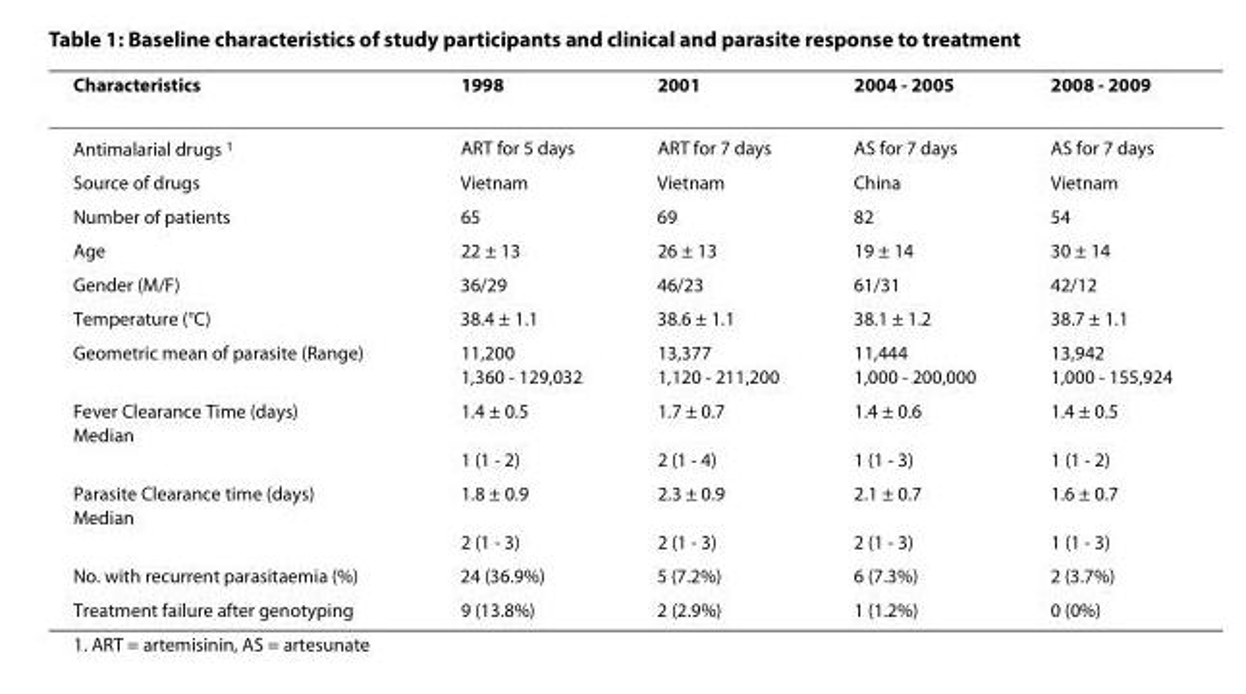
<table><thead><tr><td>Characteristics</td><td>1998</td><td>2001</td><td>2004 - 2005</td><td>2008 - 2009</td></tr></thead><tbody><tr><td>Antimalarial drugs <sup>1</sup></td><td>ART for 5 days</td><td>ART for 7 days</td><td>AS for 7 days</td><td>AS for 7 days</td></tr><tr><td>Source of drugs</td><td>Vietnam</td><td>Vietnam</td><td>China</td><td>Vietnam</td></tr><tr><td>Number of patients</td><td>65</td><td>69</td><td>82</td><td>54</td></tr><tr><td>Age</td><td>22 ± 13</td><td>26 ± 13</td><td>19 ± 14</td><td>30 ± 14</td></tr><tr><td>Gender (M/F)</td><td>36/29</td><td>46/23</td><td>61/31</td><td>42/12</td></tr><tr><td>Temperature (°C)</td><td>38.4 ± 1.1</td><td>38.6 ± 1.1</td><td>38.1 ± 1.2</td><td>38.7 ± 1.1</td></tr><tr><td>Geometric mean of parasite (Range)</td><td>11,200 1,360 - 129,032</td><td>13,377 1,120 - 211,200</td><td>11,444 1,000 - 200,000</td><td>13,942 1,000 - 155,924</td></tr><tr><td>Fever Clearance Time (days) Median</td><td>1.4 ± 0.5 1 (1 - 2)</td><td>1.7 ± 0.7 2 (1 - 4)</td><td>1.4 ± 0.6 1 (1 - 3)</td><td>1.4 ± 0.5 1 (1 - 2)</td></tr><tr><td>Parasite Clearance time (days) Median</td><td>1.8 ± 0.9 2 (1 - 3)</td><td>2.3 ± 0.9 2 (1 - 3)</td><td>2.1 ± 0.7 2 (1 - 3)</td><td>1.6 ± 0.7 1 (1 - 3)</td></tr><tr><td>No. with recurrent parasitaemia (%)</td><td>24 (36.9%)</td><td>5 (7.2%)</td><td>6 (7.3%)</td><td>2 (3.7%)</td></tr><tr><td>Treatment failure after genotyping</td><td>9 (13.8%)</td><td>2 (2.9%)</td><td>1 (1.2%)</td><td>0 (0%)</td></tr></tbody></table>